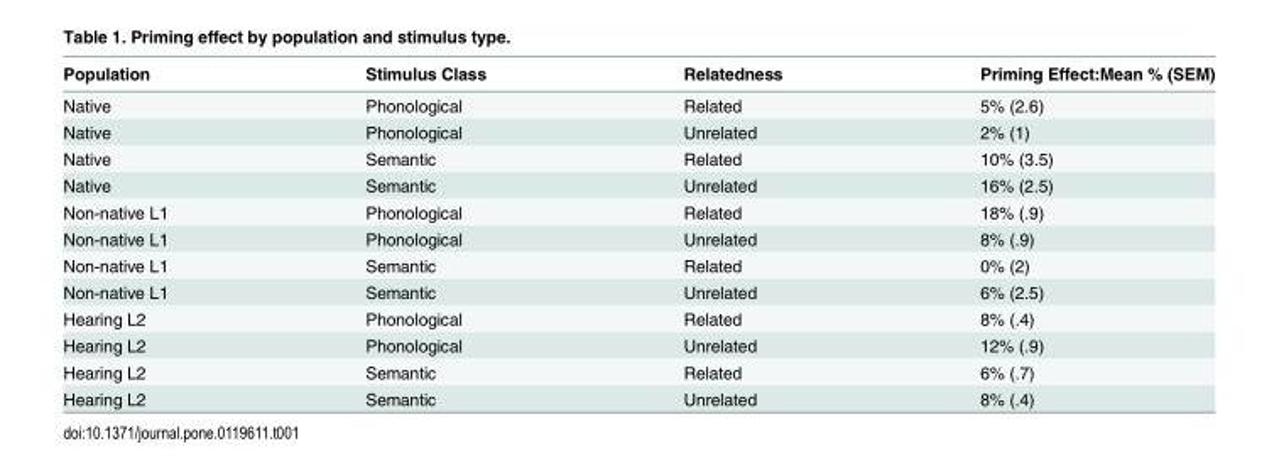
<table><thead><tr><td>Population</td><td>Stimulus Class</td><td>Relatedness</td><td>Priming Effect:Mean % (SEM)</td></tr></thead><tbody><tr><td>Native</td><td>Phonological</td><td>Related</td><td>5% (2.6)</td></tr><tr><td>Native</td><td>Phonological</td><td>Unrelated</td><td>2% (1)</td></tr><tr><td>Native</td><td>Semantic</td><td>Related</td><td>10% (3.5)</td></tr><tr><td>Native</td><td>Semantic</td><td>Unrelated</td><td>16% (2.5)</td></tr><tr><td>Non-native L1</td><td>Phonological</td><td>Related</td><td>18% (.9)</td></tr><tr><td>Non-native L1</td><td>Phonological</td><td>Unrelated</td><td>8% (.9)</td></tr><tr><td>Non-native L1</td><td>Semantic</td><td>Related</td><td>0% (2)</td></tr><tr><td>Non-native L1</td><td>Semantic</td><td>Unrelated</td><td>6% (2.5)</td></tr><tr><td>Hearing L2</td><td>Phonological</td><td>Related</td><td>8% (.4)</td></tr><tr><td>Hearing L2</td><td>Phonological</td><td>Unrelated</td><td>12% (.9)</td></tr><tr><td>Hearing L2</td><td>Semantic</td><td>Related</td><td>6% (.7)</td></tr><tr><td>Hearing L2</td><td>Semantic</td><td>Unrelated</td><td>8% (.4)</td></tr></tbody></table>